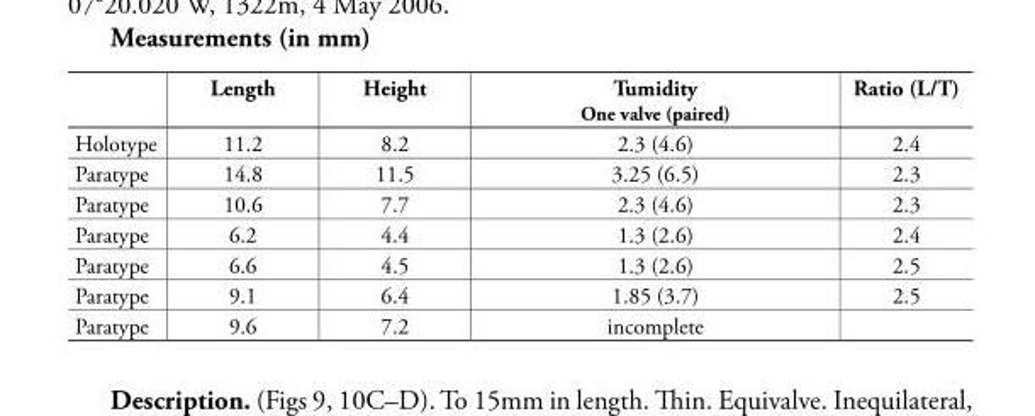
<table><thead><tr><td></td><td>Length</td><td>Height</td><td>Tumidity One valve (paired)</td><td>Ratio (L/T)</td></tr></thead><tbody><tr><td>Holotype</td><td>11.2</td><td>8.2</td><td>2.3 (4.6)</td><td>2.4</td></tr><tr><td>Paratype</td><td>14.8</td><td>11.5</td><td>3.25 (6.5)</td><td>2.3</td></tr><tr><td>Paratype</td><td>10.6</td><td>7.7</td><td>2.3 (4.6)</td><td>2.3</td></tr><tr><td>Paratype</td><td>6.2</td><td>4.4</td><td>1.3 (2.6)</td><td>2.4</td></tr><tr><td>Paratype</td><td>6.6</td><td>4.5</td><td>1.3 (2.6)</td><td>2.5</td></tr><tr><td>Paratype</td><td>9.1</td><td>6.4</td><td>1.85 (3.7)</td><td>2.5</td></tr><tr><td>Paratype</td><td>9.6</td><td>7.2</td><td>incomplete</td><td></td></tr></tbody></table>